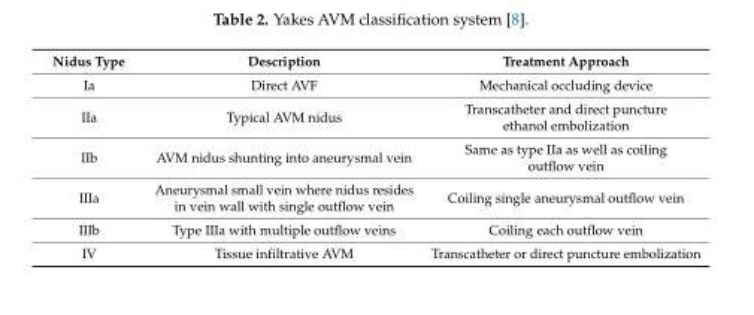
<table><thead><tr><td>Nidus Type</td><td>Description</td><td>Treatment Approach</td></tr></thead><tbody><tr><td>Ia</td><td>Direct AVF</td><td>Mechanical occluding device</td></tr><tr><td>IIa</td><td>Typical AVM nidus</td><td>Transcatheter and direct puncture ethanol embolization</td></tr><tr><td>IIb</td><td>AVM nidus shunting into aneurysmal vein</td><td>Same as type IIa as well as coiling outflow vein</td></tr><tr><td>IIIa</td><td>Aneurysmal small vein where nidus resides in vein wall with single outflow vein</td><td>Coiling single aneurysmal outflow vein</td></tr><tr><td>IIIb</td><td>Type IIIa with multiple outflow veins</td><td>Coiling each outflow vein</td></tr><tr><td>IV</td><td>Tissue infiltrative AVM</td><td>Transcatheter or direct puncture embolization</td></tr></tbody></table>